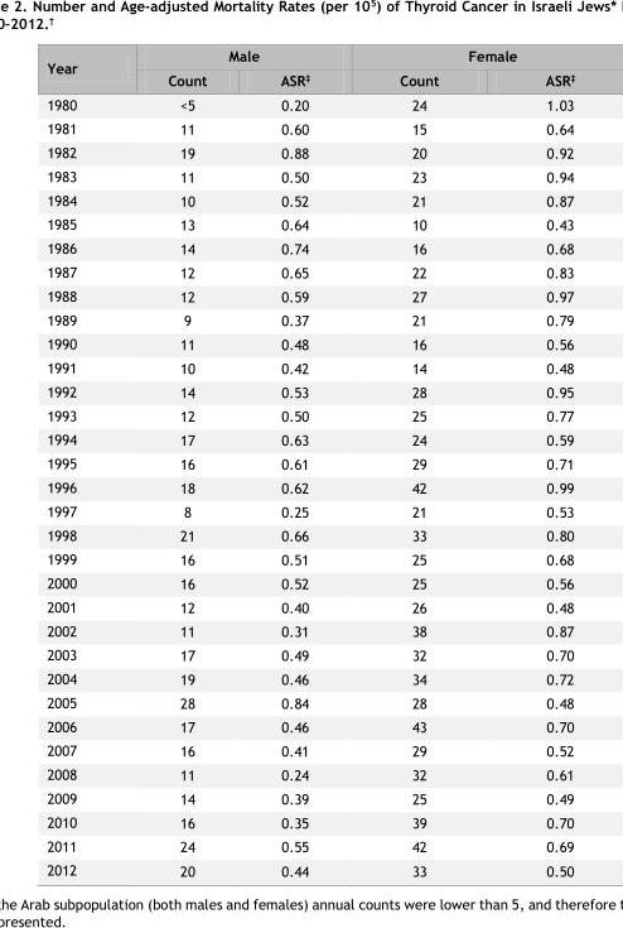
<table><thead><tr><td rowspan="2">Year</td><td colspan="2">Male</td><td colspan="2">Female</td></tr><tr><td>Count</td><td>ASR<sup>‡</sup></td><td>Count</td><td>ASR<sup>‡</sup></td></tr></thead><tbody><tr><td>1980</td><td>&lt;5</td><td>0.20</td><td>24</td><td>1.03</td></tr><tr><td>1981</td><td>11</td><td>0.60</td><td>15</td><td>0.64</td></tr><tr><td>1982</td><td>19</td><td>0.88</td><td>20</td><td>0.92</td></tr><tr><td>1983</td><td>11</td><td>0.50</td><td>23</td><td>0.94</td></tr><tr><td>1984</td><td>10</td><td>0.52</td><td>21</td><td>0.87</td></tr><tr><td>1985</td><td>13</td><td>0.64</td><td>10</td><td>0.43</td></tr><tr><td>1986</td><td>14</td><td>0.74</td><td>16</td><td>0.68</td></tr><tr><td>1987</td><td>12</td><td>0.65</td><td>22</td><td>0.83</td></tr><tr><td>1988</td><td>12</td><td>0.59</td><td>27</td><td>0.97</td></tr><tr><td>1989</td><td>9</td><td>0.37</td><td>21</td><td>0.79</td></tr><tr><td>1990</td><td>11</td><td>0.48</td><td>16</td><td>0.56</td></tr><tr><td>1991</td><td>10</td><td>0.42</td><td>14</td><td>0.48</td></tr><tr><td>1992</td><td>14</td><td>0.53</td><td>28</td><td>0.95</td></tr><tr><td>1993</td><td>12</td><td>0.50</td><td>25</td><td>0.77</td></tr><tr><td>1994</td><td>17</td><td>0.63</td><td>24</td><td>0.59</td></tr><tr><td>1995</td><td>16</td><td>0.61</td><td>29</td><td>0.71</td></tr><tr><td>1996</td><td>18</td><td>0.62</td><td>42</td><td>0.99</td></tr><tr><td>1997</td><td>8</td><td>0.25</td><td>21</td><td>0.53</td></tr><tr><td>1998</td><td>21</td><td>0.66</td><td>33</td><td>0.80</td></tr><tr><td>1999</td><td>16</td><td>0.51</td><td>25</td><td>0.68</td></tr><tr><td>2000</td><td>16</td><td>0.52</td><td>25</td><td>0.56</td></tr><tr><td>2001</td><td>12</td><td>0.40</td><td>26</td><td>0.48</td></tr><tr><td>2002</td><td>11</td><td>0.31</td><td>38</td><td>0.87</td></tr><tr><td>2003</td><td>17</td><td>0.49</td><td>32</td><td>0.70</td></tr><tr><td>2004</td><td>19</td><td>0.46</td><td>34</td><td>0.72</td></tr><tr><td>2005</td><td>28</td><td>0.84</td><td>28</td><td>0.48</td></tr><tr><td>2006</td><td>17</td><td>0.46</td><td>43</td><td>0.70</td></tr><tr><td>2007</td><td>16</td><td>0.41</td><td>29</td><td>0.52</td></tr><tr><td>2008</td><td>11</td><td>0.24</td><td>32</td><td>0.61</td></tr><tr><td>2009</td><td>14</td><td>0.39</td><td>25</td><td>0.49</td></tr><tr><td>2010</td><td>16</td><td>0.35</td><td>39</td><td>0.70</td></tr><tr><td>2011</td><td>24</td><td>0.55</td><td>42</td><td>0.69</td></tr><tr><td>2012</td><td>20</td><td>0.44</td><td>33</td><td>0.50</td></tr></tbody></table>